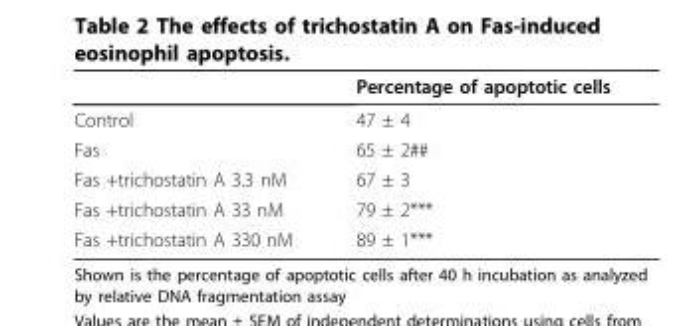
<table><thead><tr><td></td><td>Percentage of apoptotic cells</td></tr></thead><tbody><tr><td>Control</td><td>47 ± 4</td></tr><tr><td>Fas</td><td>65 ± 2##</td></tr><tr><td>Fas +trichostatin A 3.3 nM</td><td>67 ± 3</td></tr><tr><td>Fas +trichostatin A 33 nM</td><td>79 ± 2***</td></tr><tr><td>Fas +trichostatin A 330 nM</td><td>89 ± 1***</td></tr></tbody></table>